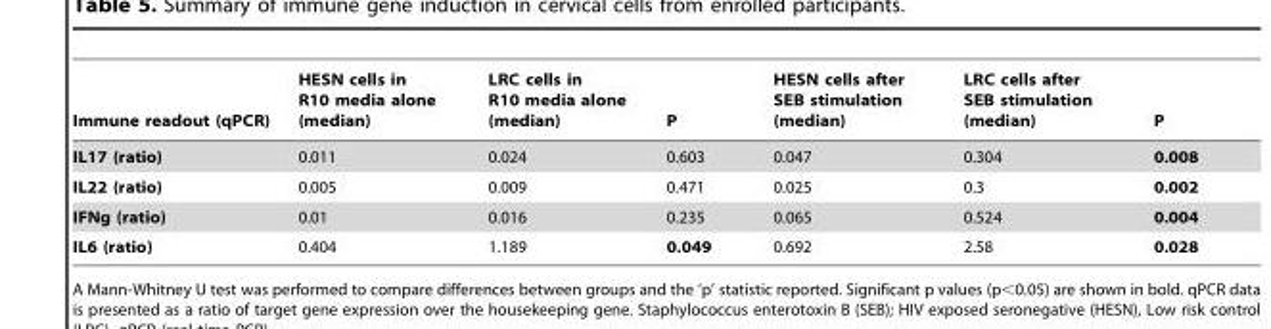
<table><thead><tr><td>Immune readout (qPCR)</td><td>HESN cells in R10 media alone (median)</td><td>LRC cells in R10 media alone (median)</td><td>P</td><td>HESN cells after SEB stimulation (median)</td><td>LRC cells after SEB stimulation (median)</td><td>P</td></tr></thead><tbody><tr><td>IL17 (ratio)</td><td>0.011</td><td>0.024</td><td>0.603</td><td>0.047</td><td>0.304</td><td>0.008</td></tr><tr><td>IL22 (ratio)</td><td>0.005</td><td>0.009</td><td>0.471</td><td>0.025</td><td>0.3</td><td>0.002</td></tr><tr><td>IFNg (ratio)</td><td>0.01</td><td>0.016</td><td>0.235</td><td>0.065</td><td>0.524</td><td>0.004</td></tr><tr><td>IL6 (ratio)</td><td>0.404</td><td>1.189</td><td>0.049</td><td>0.692</td><td>2.58</td><td>0.028</td></tr></tbody></table>